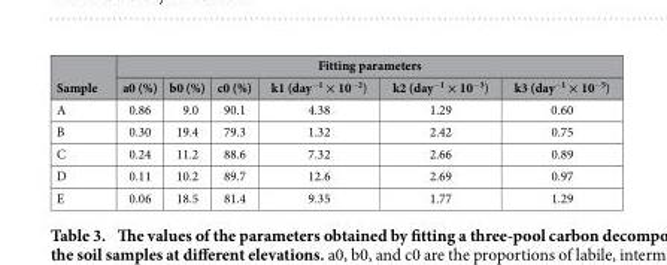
<table><thead><tr><td rowspan="2">Sample</td><td colspan="6">Fitting parameters</td></tr><tr><td>a0 (%)</td><td>b0 (%)</td><td>c0 (%)</td><td>k1 (day<sup>−1</sup> × 10<sup>−2</sup>)</td><td>k2 (day<sup>−1</sup> × 10<sup>−3</sup>)</td><td>k3 (day<sup>−1</sup> × 10<sup>−5</sup>)</td></tr></thead><tbody><tr><td>A</td><td>0.86</td><td>9.0</td><td>90.1</td><td>4.38</td><td>1.29</td><td>0.60</td></tr><tr><td>B</td><td>0.30</td><td>19.4</td><td>79.3</td><td>1.32</td><td>2.42</td><td>0.75</td></tr><tr><td>C</td><td>0.24</td><td>11.2</td><td>88.6</td><td>7.32</td><td>2.66</td><td>0.89</td></tr><tr><td>D</td><td>0.11</td><td>10.2</td><td>89.7</td><td>12.6</td><td>2.69</td><td>0.97</td></tr><tr><td>E</td><td>0.06</td><td>18.5</td><td>81.4</td><td>9.35</td><td>1.77</td><td>1.29</td></tr></tbody></table>